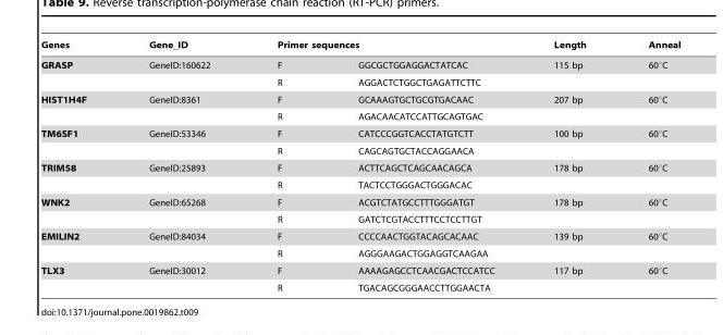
<table><thead><tr><td rowspan="2">Genes GRASP</td><td rowspan="2">Gene_ID GeneID:160622</td><td colspan="2">Primer sequences</td><td rowspan="2">Length 115 bp</td><td rowspan="2">Anneal 60°C</td></tr><tr><td>F</td><td>GGCGCTGGAGGACTATCAC</td></tr></thead><tbody><tr><td></td><td></td><td>R</td><td>AGGACTCTGGCTGAGATTCTTC</td><td></td><td></td></tr><tr><td rowspan="2">HIST1H4F</td><td>GeneID:8361</td><td>F</td><td>GCAAAGTGCTGCGTGACAAC</td><td>207 bp</td><td>60°C</td></tr><tr><td></td><td>R</td><td>AGACAACATCCATTGCAGTGAC</td><td></td><td></td></tr><tr><td rowspan="2">TM6SF1</td><td>GeneID:53346</td><td>F</td><td>CATCCCGGTCACCTATGTCTT</td><td>100 bp</td><td>60°C</td></tr><tr><td></td><td>R</td><td>CAGCAGTGCTACCAGGAACA</td><td></td><td></td></tr><tr><td rowspan="2">TRIM58</td><td>GeneID:25893</td><td>F</td><td>ACTTCAGCTCAGCAACAGCA</td><td>178 bp</td><td>60°C</td></tr><tr><td></td><td>R</td><td>TACTCCTGGGACTGGGACAC</td><td></td><td></td></tr><tr><td rowspan="2">WNK2</td><td>GeneID:65268</td><td>F</td><td>ACGTCTATGCCTTTGGGATGT</td><td>178 bp</td><td>60°C</td></tr><tr><td></td><td>R</td><td>GATCTCGTACCTTTCCTCCTTGT</td><td></td><td></td></tr><tr><td rowspan="2">EMILIN2</td><td>GeneID:84034</td><td>F</td><td>CCCCAACTGGTACAGCACAAC</td><td>139 bp</td><td>60°C</td></tr><tr><td></td><td>R</td><td>AGGGAAGACTGGAGGTCAAGAA</td><td></td><td></td></tr><tr><td rowspan="2">TLX3</td><td>GeneID:30012</td><td>F</td><td>AAAAGAGCCTCAACGACTCCATCC</td><td>117 bp</td><td>60°C</td></tr><tr><td></td><td>R</td><td>TGACAGCGGGAACCTTGGAACTA</td><td></td><td></td></tr></tbody></table>